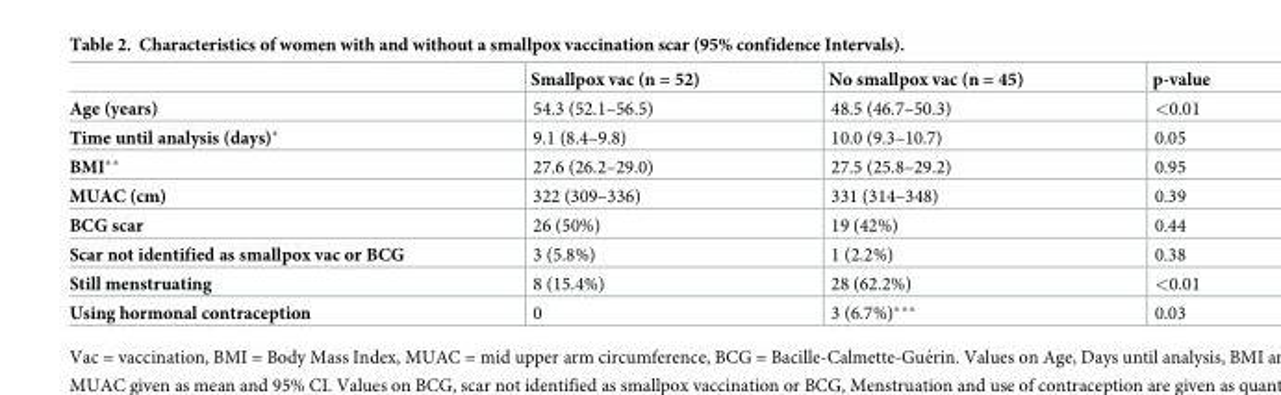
<table><thead><tr><td></td><td>Smallpox vac (n = 52)</td><td>No smallpox vac (n = 45)</td><td>p-value</td></tr></thead><tbody><tr><td>Age (years)</td><td>54.3 (52.1–56.5)</td><td>48.5 (46.7–50.3)</td><td>&lt;0.01</td></tr><tr><td>Time until analysis (days)*</td><td>9.1 (8.4–9.8)</td><td>10.0 (9.3–10.7)</td><td>0.05</td></tr><tr><td>BMI**</td><td>27.6 (26.2–29.0)</td><td>27.5 (25.8–29.2)</td><td>0.95</td></tr><tr><td>MUAC (cm)</td><td>322 (309–336)</td><td>331 (314–348)</td><td>0.39</td></tr><tr><td>BCG scar</td><td>26 (50%)</td><td>19 (42%)</td><td>0.44</td></tr><tr><td>Scar not identified as smallpox vac or BCG</td><td>3 (5.8%)</td><td>1 (2.2%)</td><td>0.38</td></tr><tr><td>Still menstruating</td><td>8 (15.4%)</td><td>28 (62.2%)</td><td>&lt;0.01</td></tr><tr><td>Using hormonal contraception</td><td>0</td><td>3 (6.7%)***</td><td>0.03</td></tr></tbody></table>